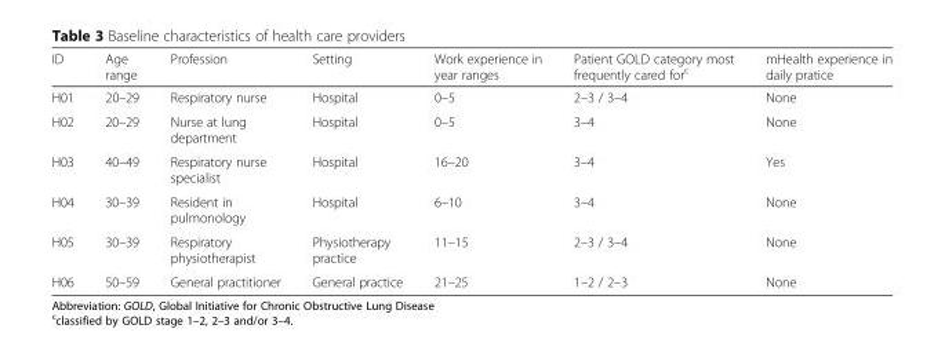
<table><thead><tr><td>ID</td><td>Age range</td><td>Profession</td><td>Setting</td><td>Work experience in year ranges</td><td>Patient GOLD category most frequently cared for<sup>c</sup></td><td>mHealth experience in daily pratice</td></tr></thead><tbody><tr><td>H01</td><td>20–29</td><td>Respiratory nurse</td><td>Hospital</td><td>0–5</td><td>2–3 / 3–4</td><td>None</td></tr><tr><td>H02</td><td>20–29</td><td>Nurse at lung department</td><td>Hospital</td><td>0–5</td><td>3–4</td><td>None</td></tr><tr><td>H03</td><td>40–49</td><td>Respiratory nurse specialist</td><td>Hospital</td><td>16–20</td><td>3–4</td><td>Yes</td></tr><tr><td>H04</td><td>30–39</td><td>Resident in pulmonology</td><td>Hospital</td><td>6–10</td><td>3–4</td><td>None</td></tr><tr><td>H05</td><td>30–39</td><td>Respiratory physiotherapist</td><td>Physiotherapy practice</td><td>11–15</td><td>2–3 / 3–4</td><td>None</td></tr><tr><td>H06</td><td>50–59</td><td>General practitioner</td><td>General practice</td><td>21–25</td><td>1–2 / 2–3</td><td>None</td></tr></tbody></table>